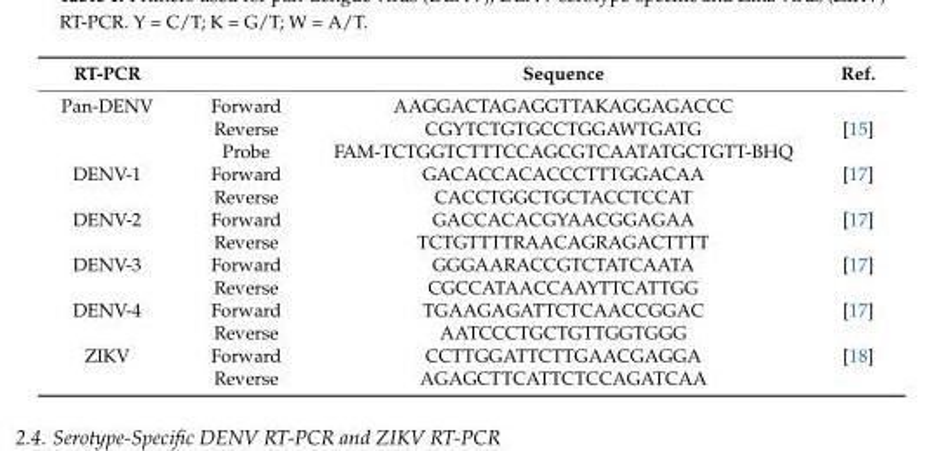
<table><thead><tr><td>RT-PCR</td><td></td><td>Sequence</td><td>Ref.</td></tr></thead><tbody><tr><td rowspan="3">Pan-DENV</td><td>Forward</td><td>AAGGACTAGAGGTTAKAGGAGACCC</td><td></td></tr><tr><td>Reverse</td><td>CGYTCTGTGCCTGGAWTGATG</td><td>[15]</td></tr><tr><td>Probe</td><td>FAM-TCTGGTCTTTCCAGCGTCAATATGCTGTT-BHQ</td><td></td></tr><tr><td rowspan="2">DENV-1</td><td>Forward</td><td>GACACCACACCCTTTGGACAA</td><td>[17]</td></tr><tr><td>Reverse</td><td>CACCTGGCTGCTACCTCCAT</td><td></td></tr><tr><td rowspan="2">DENV-2</td><td>Forward</td><td>GACCACACGYAACGGAGAA</td><td>[17]</td></tr><tr><td>Reverse</td><td>TCTGTTTTRAACAGRAGACTTTT</td><td></td></tr><tr><td rowspan="2">DENV-3</td><td>Forward</td><td>GGGAARACCGTCTATCAATA</td><td>[17]</td></tr><tr><td>Reverse</td><td>CGCCATAACCAAYTTCATTGG</td><td></td></tr><tr><td rowspan="2">DENV-4</td><td>Forward</td><td>TGAAGAGATTCTCAACCGGAC</td><td>[17]</td></tr><tr><td>Reverse</td><td>AATCCCTGCTGTTGGTGGG</td><td></td></tr><tr><td rowspan="2">ZIKV</td><td>Forward</td><td>CCTTGGATTCTTGAACGAGGA</td><td>[18]</td></tr><tr><td>Reverse</td><td>AGAGCTTCATTCTCCAGATCAA</td><td></td></tr></tbody></table>